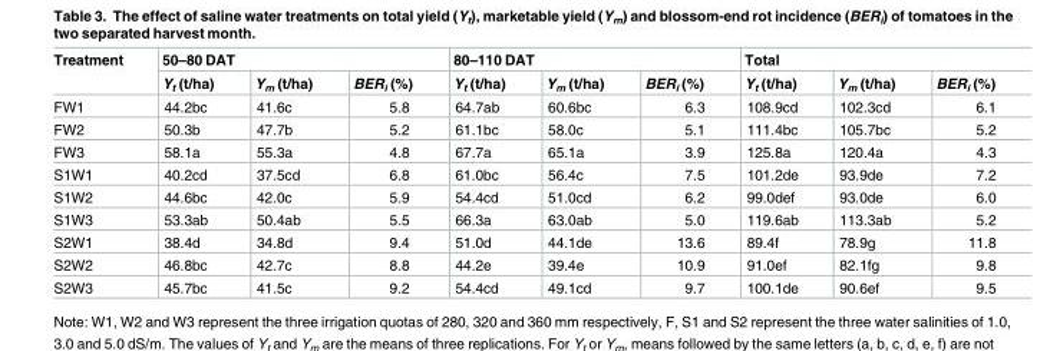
<table><thead><tr><td rowspan="2">Treatment</td><td colspan="3">50–80 DAT</td><td colspan="3">80–110 DAT</td><td colspan="3">Total</td></tr><tr><td>Y<sub>t</sub> (t/ha)</td><td>Y<sub>m</sub> (t/ha)</td><td>BER<sub>i</sub> (%)</td><td>Y<sub>t</sub> (t/ha)</td><td>Y<sub>m</sub> (t/ha)</td><td>BER<sub>i</sub> (%)</td><td>Y<sub>t</sub> (t/ha)</td><td>Y<sub>m</sub> (t/ha)</td><td>BER<sub>i</sub> (%)</td></tr></thead><tbody><tr><td>FW1</td><td>44.2bc</td><td>41.6c</td><td>5.8</td><td>64.7ab</td><td>60.6bc</td><td>6.3</td><td>108.9cd</td><td>102.3cd</td><td>6.1</td></tr><tr><td>FW2</td><td>50.3b</td><td>47.7b</td><td>5.2</td><td>61.1bc</td><td>58.0c</td><td>5.1</td><td>111.4bc</td><td>105.7bc</td><td>5.2</td></tr><tr><td>FW3</td><td>58.1a</td><td>55.3a</td><td>4.8</td><td>67.7a</td><td>65.1a</td><td>3.9</td><td>125.8a</td><td>120.4a</td><td>4.3</td></tr><tr><td>S1W1</td><td>40.2cd</td><td>37.5cd</td><td>6.8</td><td>61.0bc</td><td>56.4c</td><td>7.5</td><td>101.2de</td><td>93.9de</td><td>7.2</td></tr><tr><td>S1W2</td><td>44.6bc</td><td>42.0c</td><td>5.9</td><td>54.4cd</td><td>51.0cd</td><td>6.2</td><td>99.0def</td><td>93.0de</td><td>6.0</td></tr><tr><td>S1W3</td><td>53.3ab</td><td>50.4ab</td><td>5.5</td><td>66.3a</td><td>63.0ab</td><td>5.0</td><td>119.6ab</td><td>113.3ab</td><td>5.2</td></tr><tr><td>S2W1</td><td>38.4d</td><td>34.8d</td><td>9.4</td><td>51.0d</td><td>44.1de</td><td>13.6</td><td>89.4f</td><td>78.9g</td><td>11.8</td></tr><tr><td>S2W2</td><td>46.8bc</td><td>42.7c</td><td>8.8</td><td>44.2e</td><td>39.4e</td><td>10.9</td><td>91.0ef</td><td>82.1fg</td><td>9.8</td></tr><tr><td>S2W3</td><td>45.7bc</td><td>41.5c</td><td>9.2</td><td>54.4cd</td><td>49.1cd</td><td>9.7</td><td>100.1de</td><td>90.6ef</td><td>9.5</td></tr></tbody></table>